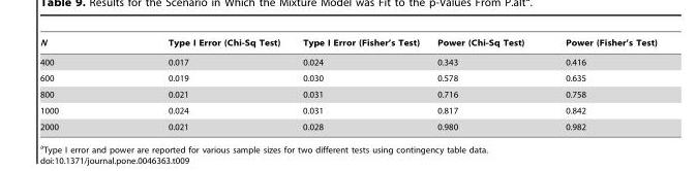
<table><thead><tr><td>N</td><td>Type I Error (Chi-Sq Test)</td><td>Type I Error (Fisher’s Test)</td><td>Power (Chi-Sq Test)</td><td>Power (Fisher’s Test)</td></tr></thead><tbody><tr><td>400</td><td>0.017</td><td>0.024</td><td>0.343</td><td>0.416</td></tr><tr><td>600</td><td>0.019</td><td>0.030</td><td>0.578</td><td>0.635</td></tr><tr><td>800</td><td>0.021</td><td>0.031</td><td>0.716</td><td>0.758</td></tr><tr><td>1000</td><td>0.024</td><td>0.031</td><td>0.817</td><td>0.842</td></tr><tr><td>2000</td><td>0.021</td><td>0.028</td><td>0.980</td><td>0.982</td></tr></tbody></table>